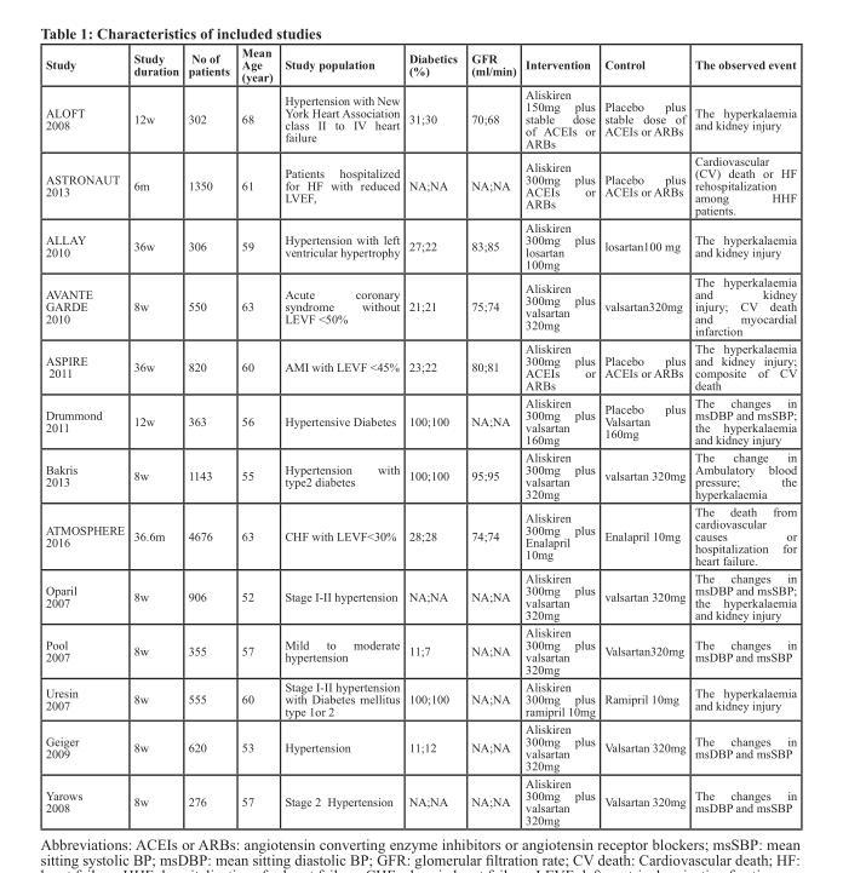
<table><thead><tr><td>Study</td><td>Study duration</td><td>No of patients</td><td>Mean Age (year)</td><td>Study population</td><td>Diabetics (%)</td><td>GFR (ml/min)</td><td>Intervention</td><td>Control</td><td>The observed event</td></tr></thead><tbody><tr><td>ALOFT 2008</td><td>12w</td><td>302</td><td>68</td><td>Hypertension with New York Heart Association class II to IV heart failure</td><td>31;30</td><td>70;68</td><td>Aliskiren 150mg plus stable dose of ACEIs or ARBs</td><td>Placebo plus stable dose of ACEIs or ARBs</td><td>The hyperkalaemia and kidney injury</td></tr><tr><td>ASTRONAUT 2013</td><td>6m</td><td>1350</td><td>61</td><td>Patients hospitalized for HF with reduced LVEF,</td><td>NA;NA</td><td>NA;NA</td><td>Aliskiren 300mg plus ACEIs or ARBs</td><td>Placebo plus ACEIs or ARBs</td><td>Cardiovascular (CV) death or HF rehospitalization among HHF patients.</td></tr><tr><td>ALLAY 2010</td><td>36w</td><td>306</td><td>59</td><td>Hypertension with left ventricular hypertrophy</td><td>27;22</td><td>83;85</td><td>Aliskiren 300mg plus losartan 100mg</td><td>losartan100 mg</td><td>The hyperkalaemia and kidney injury</td></tr><tr><td>AVANTE GARDE 2010</td><td>8w</td><td>550</td><td>63</td><td>Acute coronary syndrome without LEVF &lt;50%</td><td>21;21</td><td>75;74</td><td>Aliskiren 300mg plus valsartan 320mg</td><td>valsartan320mg</td><td>The hyperkalaemia and kidney injury; CV death and myocardial infarction</td></tr><tr><td>ASPIRE 2011</td><td>36w</td><td>820</td><td>60</td><td>AMI with LEVF &lt;45%</td><td>23;22</td><td>80;81</td><td>Aliskiren 300mg plus ACEIs or ARBs</td><td>Placebo plus ACEIs or ARBs</td><td>The hyperkalaemia and kidney injury; composite of CV death</td></tr><tr><td>Drummond 2011</td><td>12w</td><td>363</td><td>56</td><td>Hypertensive Diabetes</td><td>100;100</td><td>NA;NA</td><td>Aliskiren 300mg plus valsartan 160mg</td><td>Placebo plus Valsartan 160mg</td><td>The changes in msDBP and msSBP; the hyperkalaemia and kidney injury</td></tr><tr><td>Bakris 2013</td><td>8w</td><td>1143</td><td>55</td><td>Hypertension with type2 diabetes</td><td>100;100</td><td>95;95</td><td>Aliskiren 300mg plus valsartan 320mg</td><td>valsartan 320mg</td><td>The change in Ambulatory blood pressure; the hyperkalaemia</td></tr><tr><td>ATMOSPHERE 2016</td><td>36.6m</td><td>4676</td><td>63</td><td>CHF with LEVF&lt;30%</td><td>28;28</td><td>74;74</td><td>Aliskiren 300mg plus Enalapril 10mg</td><td>Enalapril 10mg</td><td>The death from cardiovascular causes or hospitalization for heart failure.</td></tr><tr><td>Oparil 2007</td><td>8w</td><td>906</td><td>52</td><td>Stage I-II hypertension</td><td>NA;NA</td><td>NA;NA</td><td>Aliskiren 300mg plus valsartan 320mg</td><td>valsartan 320mg</td><td>The changes in msDBP and msSBP; the hyperkalaemia and kidney injury</td></tr><tr><td>Pool 2007</td><td>8w</td><td>355</td><td>57</td><td>Mild to moderate hypertension</td><td>11;7</td><td>NA;NA</td><td>Aliskiren 300mg plus valsartan 320mg</td><td>Valsartan320mg</td><td>The changes in msDBP and msSBP</td></tr><tr><td>Uresin 2007</td><td>8w</td><td>555</td><td>60</td><td>Stage I-II hypertension with Diabetes mellitus type 1or 2</td><td>100;100</td><td>NA;NA</td><td>Aliskiren 300mg plus ramipril 10mg</td><td>Ramipril 10mg</td><td>The hyperkalaemia and kidney injury</td></tr><tr><td>Geiger 2009</td><td>8w</td><td>620</td><td>53</td><td>Hypertension</td><td>11;12</td><td>NA;NA</td><td>Aliskiren 300mg plus valsartan 320mg</td><td>Valsartan 320mg</td><td>The changes in msDBP and msSBP</td></tr><tr><td>Yarows 2008</td><td>8w</td><td>276</td><td>57</td><td>Stage 2 Hypertension</td><td>NA;NA</td><td>NA;NA</td><td>Aliskiren 300mg plus valsartan 320mg</td><td>Valsartan 320mg</td><td>The changes in msDBP and msSBP</td></tr></tbody></table>